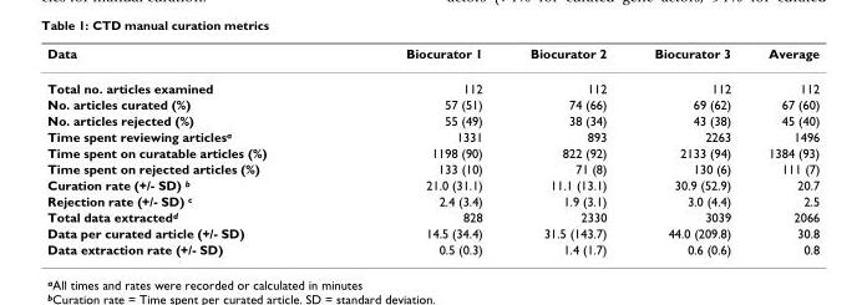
<table><thead><tr><td>Data</td><td>Biocurator 1</td><td>Biocurator 2</td><td>Biocurator 3</td><td>Average</td></tr></thead><tbody><tr><td>Total no. articles examined</td><td>112</td><td>112</td><td>112</td><td>112</td></tr><tr><td>No. articles curated (%)</td><td>57 (51)</td><td>74 (66)</td><td>69 (62)</td><td>67 (60)</td></tr><tr><td>No. articles rejected (%)</td><td>55 (49)</td><td>38 (34)</td><td>43 (38)</td><td>45 (40)</td></tr><tr><td>Time spent reviewing articles<sup>a</sup></td><td>1331</td><td>893</td><td>2263</td><td>1496</td></tr><tr><td>Time spent on curatable articles (%)</td><td>1198 (90)</td><td>822 (92)</td><td>2133 (94)</td><td>1384 (93)</td></tr><tr><td>Time spent on rejected articles (%)</td><td>133 (10)</td><td>71 (8)</td><td>130 (6)</td><td>111 (7)</td></tr><tr><td>Curation rate (+/- SD) <sup>b</sup></td><td>21.0 (31.1)</td><td>11.1 (13.1)</td><td>30.9 (52.9)</td><td>20.7</td></tr><tr><td>Rejection rate (+/- SD) <sup>c</sup></td><td>2.4 (3.4)</td><td>1.9 (3.1)</td><td>3.0 (4.4)</td><td>2.5</td></tr><tr><td>Total data extracted<sup>d</sup></td><td>828</td><td>2330</td><td>3039</td><td>2066</td></tr><tr><td>Data per curated article (+/- SD)</td><td>14.5 (34.4)</td><td>31.5 (143.7)</td><td>44.0 (209.8)</td><td>30.8</td></tr><tr><td>Data extraction rate (+/- SD)</td><td>0.5 (0.3)</td><td>1.4 (1.7)</td><td>0.6 (0.6)</td><td>0.8</td></tr></tbody></table>